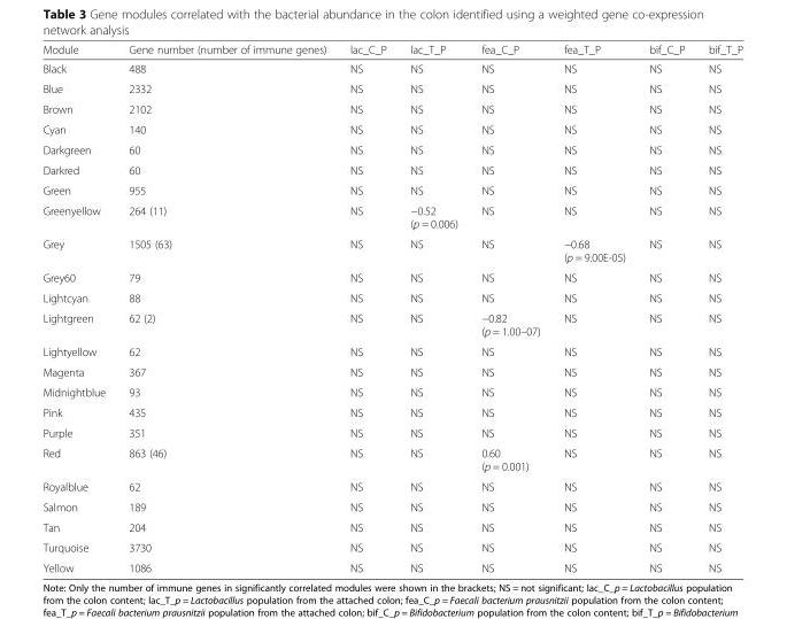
<table><thead><tr><td>Module</td><td>Gene number (number of immune genes)</td><td>lac_C_P</td><td>lac_T_P</td><td>fea_C_P</td><td>fea_T_P</td><td>bif_C_P</td><td>bif_T_P</td></tr></thead><tbody><tr><td>Black</td><td>488</td><td>NS</td><td>NS</td><td>NS</td><td>NS</td><td>NS</td><td>NS</td></tr><tr><td>Blue</td><td>2332</td><td>NS</td><td>NS</td><td>NS</td><td>NS</td><td>NS</td><td>NS</td></tr><tr><td>Brown</td><td>2102</td><td>NS</td><td>NS</td><td>NS</td><td>NS</td><td>NS</td><td>NS</td></tr><tr><td>Cyan</td><td>140</td><td>NS</td><td>NS</td><td>NS</td><td>NS</td><td>NS</td><td>NS</td></tr><tr><td>Darkgreen</td><td>60</td><td>NS</td><td>NS</td><td>NS</td><td>NS</td><td>NS</td><td>NS</td></tr><tr><td>Darkred</td><td>60</td><td>NS</td><td>NS</td><td>NS</td><td>NS</td><td>NS</td><td>NS</td></tr><tr><td>Green</td><td>955</td><td>NS</td><td>NS</td><td>NS</td><td>NS</td><td>NS</td><td>NS</td></tr><tr><td>Greenyellow</td><td>264 (11)</td><td>NS</td><td>−0.52 (p = 0.006)</td><td>NS</td><td>NS</td><td>NS</td><td>NS</td></tr><tr><td>Grey</td><td>1505 (63)</td><td>NS</td><td>NS</td><td>NS</td><td>−0.68 (p = 9.00E-05)</td><td>NS</td><td>NS</td></tr><tr><td>Grey60</td><td>79</td><td>NS</td><td>NS</td><td>NS</td><td>NS</td><td>NS</td><td>NS</td></tr><tr><td>Lightcyan</td><td>88</td><td>NS</td><td>NS</td><td>NS</td><td>NS</td><td>NS</td><td>NS</td></tr><tr><td>Lightgreen</td><td>62 (2)</td><td>NS</td><td>NS</td><td>−0.82 (p = 1.00–07)</td><td>NS</td><td>NS</td><td>NS</td></tr><tr><td>Lightyellow</td><td>62</td><td>NS</td><td>NS</td><td>NS</td><td>NS</td><td>NS</td><td>NS</td></tr><tr><td>Magenta</td><td>367</td><td>NS</td><td>NS</td><td>NS</td><td>NS</td><td>NS</td><td>NS</td></tr><tr><td>Midnightblue</td><td>93</td><td>NS</td><td>NS</td><td>NS</td><td>NS</td><td>NS</td><td>NS</td></tr><tr><td>Pink</td><td>435</td><td>NS</td><td>NS</td><td>NS</td><td>NS</td><td>NS</td><td>NS</td></tr><tr><td>Purple</td><td>351</td><td>NS</td><td>NS</td><td>NS</td><td>NS</td><td>NS</td><td>NS</td></tr><tr><td>Red</td><td>863 (46)</td><td>NS</td><td>NS</td><td>0.60 (p = 0.001)</td><td>NS</td><td>NS</td><td>NS</td></tr><tr><td>Royalblue</td><td>62</td><td>NS</td><td>NS</td><td>NS</td><td>NS</td><td>NS</td><td>NS</td></tr><tr><td>Salmon</td><td>189</td><td>NS</td><td>NS</td><td>NS</td><td>NS</td><td>NS</td><td>NS</td></tr><tr><td>Tan</td><td>204</td><td>NS</td><td>NS</td><td>NS</td><td>NS</td><td>NS</td><td>NS</td></tr><tr><td>Turquoise</td><td>3730</td><td>NS</td><td>NS</td><td>NS</td><td>NS</td><td>NS</td><td>NS</td></tr><tr><td>Yellow</td><td>1086</td><td>NS</td><td>NS</td><td>NS</td><td>NS</td><td>NS</td><td>NS</td></tr></tbody></table>